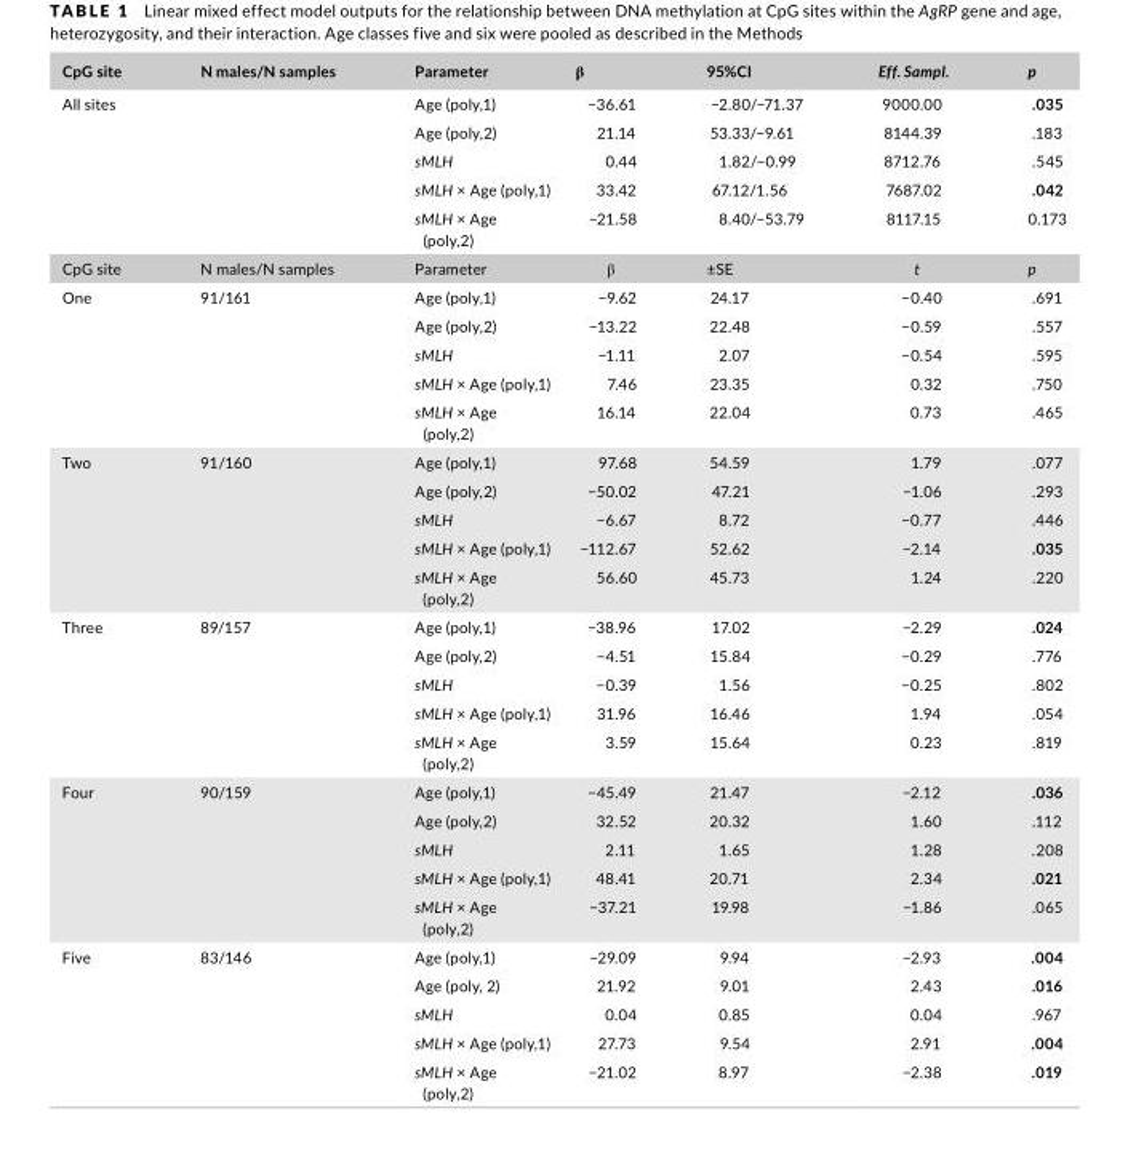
<table><thead><tr><td>CpG site</td><td>N males/N samples</td><td>Parameter</td><td>β</td><td>95%CI</td><td>Eff. Sampl.</td><td>p</td></tr></thead><tbody><tr><td rowspan="5">All sites</td><td></td><td>Age (poly,1)</td><td>−36.61</td><td>−2.80/−71.37</td><td>9000.00</td><td>.035</td></tr><tr><td></td><td>Age (poly,2)</td><td>21.14</td><td>53.33/−9.61</td><td>8144.39</td><td>.183</td></tr><tr><td></td><td>sMLH</td><td>0.44</td><td>1.82/−0.99</td><td>8712.76</td><td>.545</td></tr><tr><td></td><td>sMLH × Age (poly,1)</td><td>33.42</td><td>67.12/1.56</td><td>7687.02</td><td>.042</td></tr><tr><td></td><td>sMLH × Age (poly,2)</td><td>−21.58</td><td>8.40/−53.79</td><td>8117.15</td><td>0.173</td></tr><tr><td>CpG site</td><td>N males/N samples</td><td>Parameter</td><td>β</td><td>±SE</td><td>t</td><td>p</td></tr><tr><td rowspan="5">One</td><td>91/161</td><td>Age (poly,1)</td><td>−9.62</td><td>24.17</td><td>−0.40</td><td>.691</td></tr><tr><td></td><td>Age (poly,2)</td><td>−13.22</td><td>22.48</td><td>−0.59</td><td>.557</td></tr><tr><td></td><td>sMLH</td><td>−1.11</td><td>2.07</td><td>−0.54</td><td>.595</td></tr><tr><td></td><td>sMLH × Age (poly,1)</td><td>7.46</td><td>23.35</td><td>0.32</td><td>.750</td></tr><tr><td></td><td>sMLH × Age (poly,2)</td><td>16.14</td><td>22.04</td><td>0.73</td><td>.465</td></tr><tr><td rowspan="5">Two</td><td>91/160</td><td>Age (poly,1)</td><td>97.68</td><td>54.59</td><td>1.79</td><td>.077</td></tr><tr><td></td><td>Age (poly,2)</td><td>−50.02</td><td>47.21</td><td>−1.06</td><td>.293</td></tr><tr><td></td><td>sMLH</td><td>−6.67</td><td>8.72</td><td>−0.77</td><td>.446</td></tr><tr><td></td><td>sMLH × Age (poly,1)</td><td>−112.67</td><td>52.62</td><td>−2.14</td><td>.035</td></tr><tr><td></td><td>sMLH × Age (poly,2)</td><td>56.60</td><td>45.73</td><td>1.24</td><td>.220</td></tr><tr><td rowspan="5">Three</td><td>89/157</td><td>Age (poly,1)</td><td>−38.96</td><td>17.02</td><td>−2.29</td><td>.024</td></tr><tr><td></td><td>Age (poly,2)</td><td>−4.51</td><td>15.84</td><td>−0.29</td><td>.776</td></tr><tr><td></td><td>sMLH</td><td>−0.39</td><td>1.56</td><td>−0.25</td><td>.802</td></tr><tr><td></td><td>sMLH × Age (poly,1)</td><td>31.96</td><td>16.46</td><td>1.94</td><td>.054</td></tr><tr><td></td><td>sMLH × Age (poly,2)</td><td>3.59</td><td>15.64</td><td>0.23</td><td>.819</td></tr><tr><td rowspan="5">Four</td><td>90/159</td><td>Age (poly,1)</td><td>−45.49</td><td>21.47</td><td>−2.12</td><td>.036</td></tr><tr><td></td><td>Age (poly,2)</td><td>32.52</td><td>20.32</td><td>1.60</td><td>.112</td></tr><tr><td></td><td>sMLH</td><td>2.11</td><td>1.65</td><td>1.28</td><td>.208</td></tr><tr><td></td><td>sMLH × Age (poly,1)</td><td>48.41</td><td>20.71</td><td>2.34</td><td>.021</td></tr><tr><td></td><td>sMLH × Age (poly,2)</td><td>−37.21</td><td>19.98</td><td>−1.86</td><td>.065</td></tr><tr><td rowspan="5">Five</td><td>83/146</td><td>Age (poly,1)</td><td>−29.09</td><td>9.94</td><td>−2.93</td><td>.004</td></tr><tr><td></td><td>Age (poly, 2)</td><td>21.92</td><td>9.01</td><td>2.43</td><td>.016</td></tr><tr><td></td><td>sMLH</td><td>0.04</td><td>0.85</td><td>0.04</td><td>.967</td></tr><tr><td></td><td>sMLH × Age (poly,1)</td><td>27.73</td><td>9.54</td><td>2.91</td><td>.004</td></tr><tr><td></td><td>sMLH × Age (poly,2)</td><td>−21.02</td><td>8.97</td><td>−2.38</td><td>.019</td></tr></tbody></table>